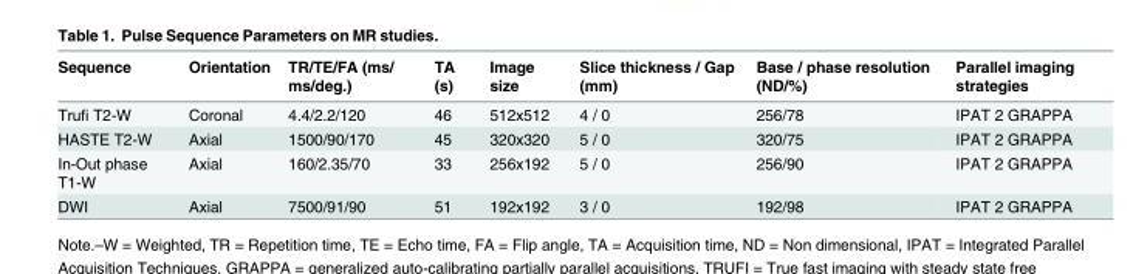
<table><thead><tr><td>Sequence</td><td>Orientation</td><td>TR/TE/FA (ms/ ms/deg.)</td><td>TA (s)</td><td>Image size</td><td>Slice thickness / Gap (mm)</td><td>Base / phase resolution (ND/%)</td><td>Parallel imaging strategies</td></tr></thead><tbody><tr><td>Trufi T2-W</td><td>Coronal</td><td>4.4/2.2/120</td><td>46</td><td>512x512</td><td>4 / 0</td><td>256/78</td><td>IPAT 2 GRAPPA</td></tr><tr><td>HASTE T2-W</td><td>Axial</td><td>1500/90/170</td><td>45</td><td>320x320</td><td>5 / 0</td><td>320/75</td><td>IPAT 2 GRAPPA</td></tr><tr><td>In-Out phase T1-W</td><td>Axial</td><td>160/2.35/70</td><td>33</td><td>256x192</td><td>5 / 0</td><td>256/90</td><td>IPAT 2 GRAPPA</td></tr><tr><td>DWI</td><td>Axial</td><td>7500/91/90</td><td>51</td><td>192x192</td><td>3 / 0</td><td>192/98</td><td>IPAT 2 GRAPPA</td></tr></tbody></table>